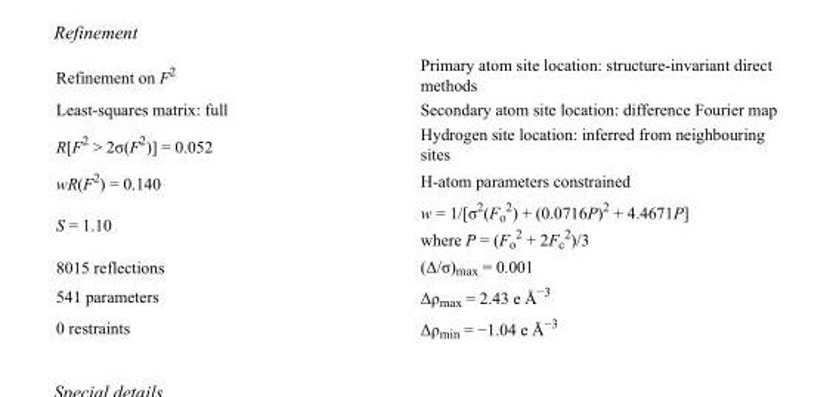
<table><tbody><tr><td>Refinement on F<sup>2</sup></td><td>Primary atom site location: structure-invariant direct methods</td></tr><tr><td>Least-squares matrix: full</td><td>Secondary atom site location: difference Fourier map</td></tr><tr><td>R[F<sup>2</sup> &gt; 2σ(F<sup>2</sup>)] = 0.052</td><td>Hydrogen site location: inferred from neighbouring sites</td></tr><tr><td>wR(F<sup>2</sup>) = 0.140</td><td>H-atom parameters constrained</td></tr><tr><td>S = 1.10</td><td>w = 1/[σ<sup>2</sup>(F<sub>o</sub> <sup>2</sup>) + (0.0716P)<sup>2</sup> + 4.4671P] where P = (F<sub>o</sub> <sup>2</sup> + 2F<sub>c</sub> <sup>2</sup>)/3</td></tr><tr><td>8015 reflections</td><td>(Δ/σ)<sub>max</sub> = 0.001</td></tr><tr><td>541 parameters</td><td>Δρ<sub>max</sub> = 2.43 e Å<sup>−3</sup></td></tr><tr><td>0 restraints</td><td>Δρ<sub>min</sub> = −1.04 e Å<sup>−3</sup></td></tr></tbody></table>